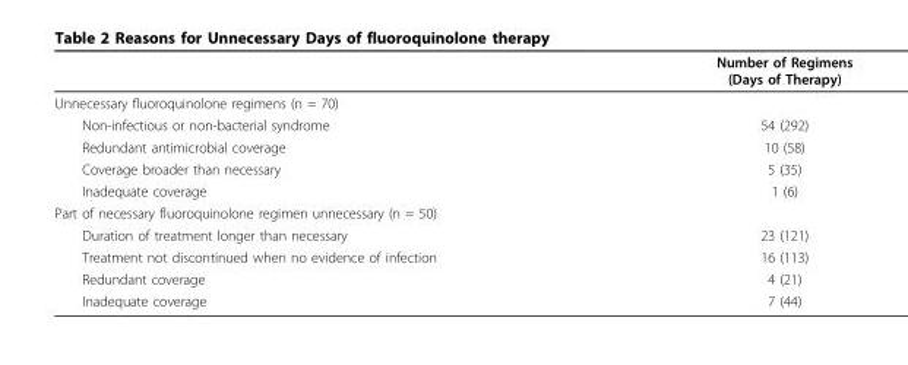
<table><thead><tr><td></td><td>Number of Regimens (Days of Therapy)</td></tr></thead><tbody><tr><td colspan="2">Unnecessary fluoroquinolone regimens (n = 70)</td></tr><tr><td>Non-infectious or non-bacterial syndrome</td><td>54 (292)</td></tr><tr><td>Redundant antimicrobial coverage</td><td>10 (58)</td></tr><tr><td>Coverage broader than necessary</td><td>5 (35)</td></tr><tr><td>Inadequate coverage</td><td>1 (6)</td></tr><tr><td colspan="2">Part of necessary fluoroquinolone regimen unnecessary (n = 50)</td></tr><tr><td>Duration of treatment longer than necessary</td><td>23 (121)</td></tr><tr><td>Treatment not discontinued when no evidence of infection</td><td>16 (113)</td></tr><tr><td>Redundant coverage</td><td>4 (21)</td></tr><tr><td>Inadequate coverage</td><td>7 (44)</td></tr></tbody></table>